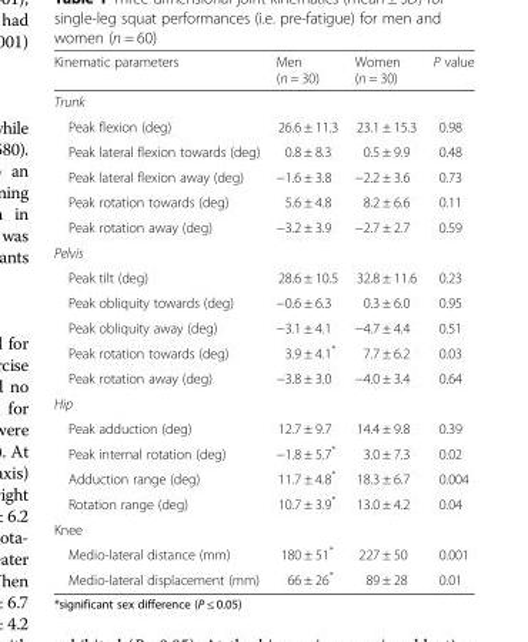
<table><thead><tr><td>Kinematic parameters</td><td>Men (n = 30)</td><td>Women (n = 30)</td><td>P value</td></tr></thead><tbody><tr><td colspan="4">Trunk</td></tr><tr><td>Peak flexion (deg)</td><td>26.6 ± 11.3</td><td>23.1 ± 15.3</td><td>0.98</td></tr><tr><td>Peak lateral flexion towards (deg)</td><td>0.8 ± 8.3</td><td>0.5 ± 9.9</td><td>0.48</td></tr><tr><td>Peak lateral flexion away (deg)</td><td>−1.6 ± 3.8</td><td>−2.2 ± 3.6</td><td>0.73</td></tr><tr><td>Peak rotation towards (deg)</td><td>5.6 ± 4.8</td><td>8.2 ± 6.6</td><td>0.11</td></tr><tr><td>Peak rotation away (deg)</td><td>−3.2 ± 3.9</td><td>−2.7 ± 2.7</td><td>0.59</td></tr><tr><td colspan="4">Pelvis</td></tr><tr><td>Peak tilt (deg)</td><td>28.6 ± 10.5</td><td>32.8 ± 11.6</td><td>0.23</td></tr><tr><td>Peak obliquity towards (deg)</td><td>−0.6 ± 6.3</td><td>0.3 ± 6.0</td><td>0.95</td></tr><tr><td>Peak obliquity away (deg)</td><td>−3.1 ± 4.1</td><td>−4.7 ± 4.4</td><td>0.51</td></tr><tr><td>Peak rotation towards (deg)</td><td>3.9 ± 4.1*</td><td>7.7 ± 6.2</td><td>0.03</td></tr><tr><td>Peak rotation away (deg)</td><td>−3.8 ± 3.0</td><td>−4.0 ± 3.4</td><td>0.64</td></tr><tr><td colspan="4">Hip</td></tr><tr><td>Peak adduction (deg)</td><td>12.7 ± 9.7</td><td>14.4 ± 9.8</td><td>0.39</td></tr><tr><td>Peak internal rotation (deg)</td><td>−1.8 ± 5.7*</td><td>3.0 ± 7.3</td><td>0.02</td></tr><tr><td>Adduction range (deg)</td><td>11.7 ± 4.8*</td><td>18.3 ± 6.7</td><td>0.004</td></tr><tr><td>Rotation range (deg)</td><td>10.7 ± 3.9*</td><td>13.0 ± 4.2</td><td>0.04</td></tr><tr><td colspan="4">Knee</td></tr><tr><td>Medio-lateral distance (mm)</td><td>180 ± 51*</td><td>227 ± 50</td><td>0.001</td></tr><tr><td>Medio-lateral displacement (mm)</td><td>66 ± 26*</td><td>89 ± 28</td><td>0.01</td></tr></tbody></table>